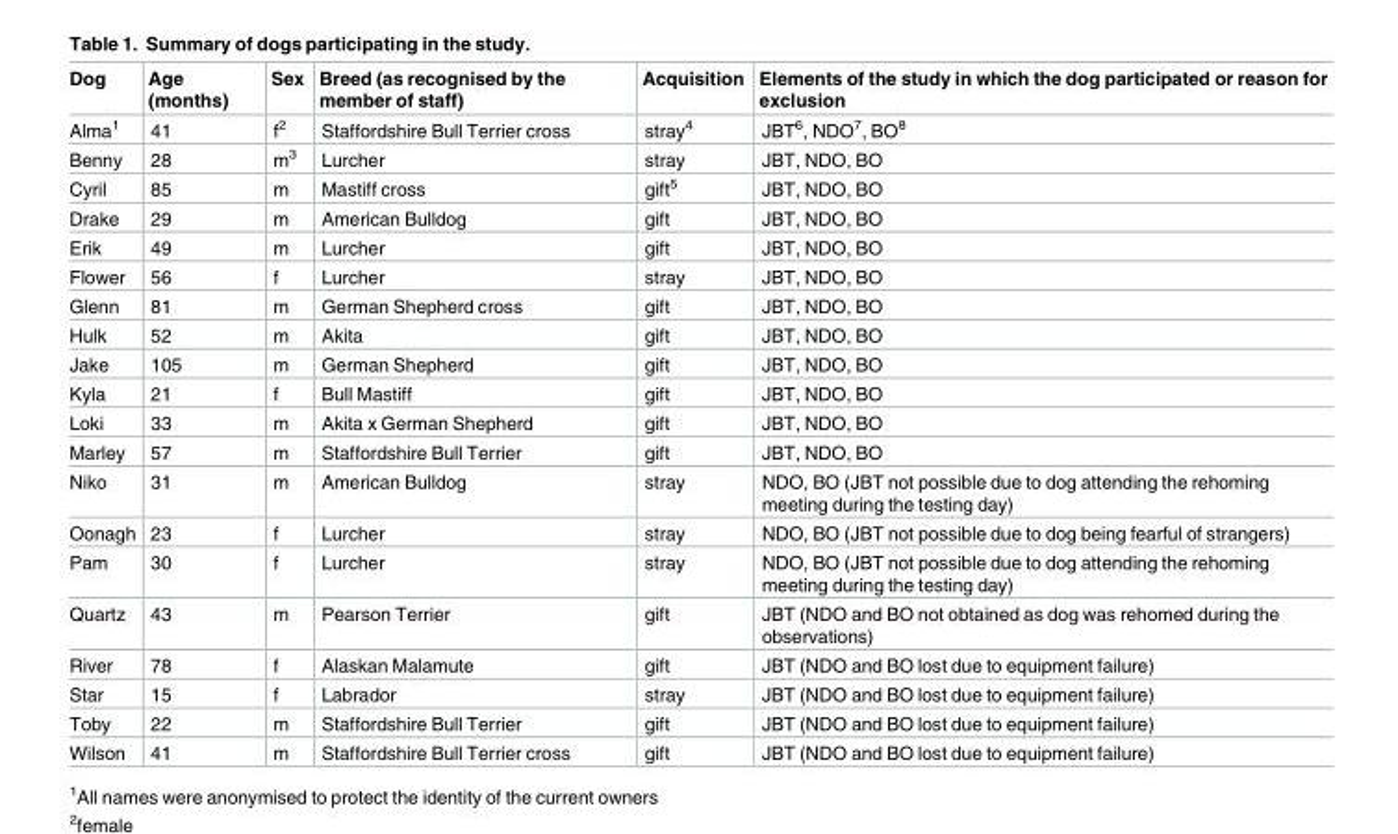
<table><thead><tr><td>Dog</td><td>Age (months)</td><td>Sex</td><td>Breed (as recognised by the member of staff)</td><td>Acquisition</td><td>Elements of the study in which the dog participated or reason for exclusion</td></tr></thead><tbody><tr><td>Alma<sup>1</sup></td><td>41</td><td>f<sup>2</sup></td><td>Staffordshire Bull Terrier cross</td><td>stray<sup>4</sup></td><td>JBT<sup>6</sup>, NDO<sup>7</sup>, BO<sup>8</sup></td></tr><tr><td>Benny</td><td>28</td><td>m<sup>3</sup></td><td>Lurcher</td><td>stray</td><td>JBT, NDO, BO</td></tr><tr><td>Cyril</td><td>85</td><td>m</td><td>Mastiff cross</td><td>gift<sup>5</sup></td><td>JBT, NDO, BO</td></tr><tr><td>Drake</td><td>29</td><td>m</td><td>American Bulldog</td><td>gift</td><td>JBT, NDO, BO</td></tr><tr><td>Erik</td><td>49</td><td>m</td><td>Lurcher</td><td>gift</td><td>JBT, NDO, BO</td></tr><tr><td>Flower</td><td>56</td><td>f</td><td>Lurcher</td><td>stray</td><td>JBT, NDO, BO</td></tr><tr><td>Glenn</td><td>81</td><td>m</td><td>German Shepherd cross</td><td>gift</td><td>JBT, NDO, BO</td></tr><tr><td>Hulk</td><td>52</td><td>m</td><td>Akita</td><td>gift</td><td>JBT, NDO, BO</td></tr><tr><td>Jake</td><td>105</td><td>m</td><td>German Shepherd</td><td>gift</td><td>JBT, NDO, BO</td></tr><tr><td>Kyla</td><td>21</td><td>f</td><td>Bull Mastiff</td><td>gift</td><td>JBT, NDO, BO</td></tr><tr><td>Loki</td><td>33</td><td>m</td><td>Akita x German Shepherd</td><td>gift</td><td>JBT, NDO, BO</td></tr><tr><td>Marley</td><td>57</td><td>m</td><td>Staffordshire Bull Terrier</td><td>gift</td><td>JBT, NDO, BO</td></tr><tr><td>Niko</td><td>31</td><td>m</td><td>American Bulldog</td><td>stray</td><td>NDO, BO (JBT not possible due to dog attending the rehoming meeting during the testing day)</td></tr><tr><td>Oonagh</td><td>23</td><td>f</td><td>Lurcher</td><td>stray</td><td>NDO, BO (JBT not possible due to dog being fearful of strangers)</td></tr><tr><td>Pam</td><td>30</td><td>f</td><td>Lurcher</td><td>stray</td><td>NDO, BO (JBT not possible due to dog attending the rehoming meeting during the testing day)</td></tr><tr><td>Quartz</td><td>43</td><td>m</td><td>Pearson Terrier</td><td>gift</td><td>JBT (NDO and BO not obtained as dog was rehomed during the observations)</td></tr><tr><td>River</td><td>78</td><td>f</td><td>Alaskan Malamute</td><td>gift</td><td>JBT (NDO and BO lost due to equipment failure)</td></tr><tr><td>Star</td><td>15</td><td>f</td><td>Labrador</td><td>stray</td><td>JBT (NDO and BO lost due to equipment failure)</td></tr><tr><td>Toby</td><td>22</td><td>m</td><td>Staffordshire Bull Terrier</td><td>gift</td><td>JBT (NDO and BO lost due to equipment failure)</td></tr><tr><td>Wilson</td><td>41</td><td>m</td><td>Staffordshire Bull Terrier cross</td><td>gift</td><td>JBT (NDO and BO lost due to equipment failure)</td></tr></tbody></table>